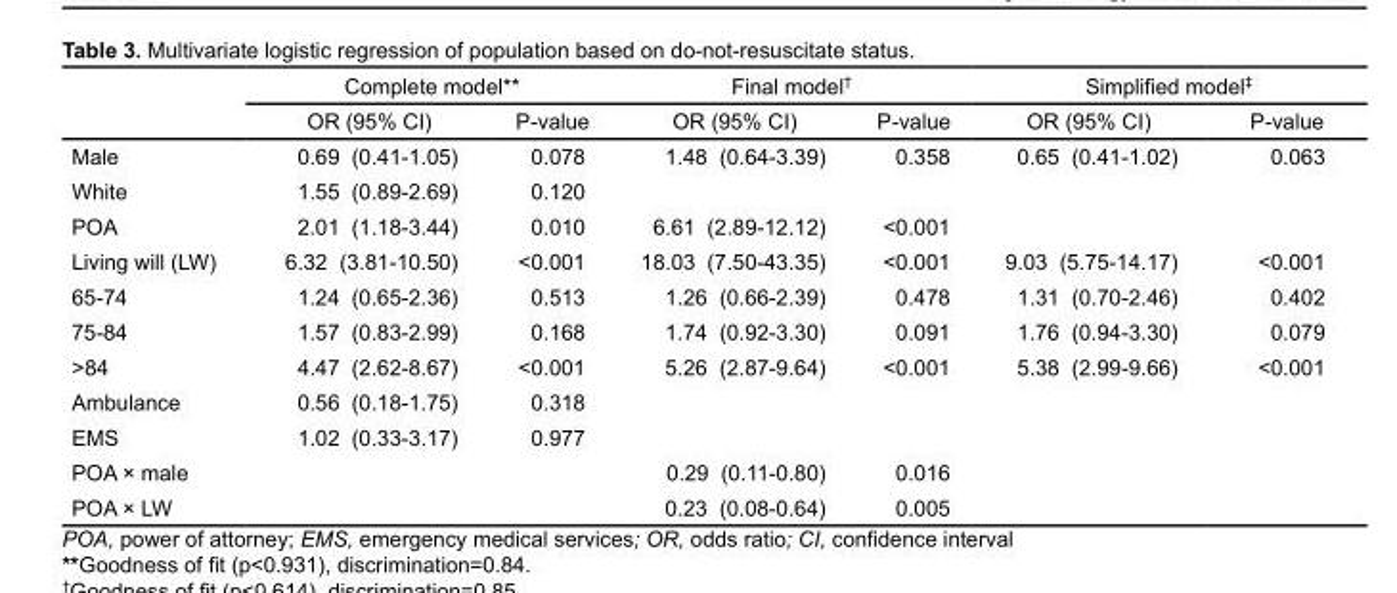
<table><thead><tr><td rowspan="2"></td><td colspan="2">Complete model**</td><td colspan="2">Final model†</td><td colspan="2">Simplified model‡</td></tr><tr><td>OR (95% CI)</td><td>P-value</td><td>OR (95% CI)</td><td>P-value</td><td>OR (95% CI)</td><td>P-value</td></tr></thead><tbody><tr><td>Male</td><td>0.69 (0.41-1.05)</td><td>0.078</td><td>1.48 (0.64-3.39)</td><td>0.358</td><td>0.65 (0.41-1.02)</td><td>0.063</td></tr><tr><td>White</td><td>1.55 (0.89-2.69)</td><td>0.120</td><td></td><td></td><td></td><td></td></tr><tr><td>POA</td><td>2.01 (1.18-3.44)</td><td>0.010</td><td>6.61 (2.89-12.12)</td><td>&lt;0.001</td><td></td><td></td></tr><tr><td>Living will (LW)</td><td>6.32 (3.81-10.50)</td><td>&lt;0.001</td><td>18.03 (7.50-43.35)</td><td>&lt;0.001</td><td>9.03 (5.75-14.17)</td><td>&lt;0.001</td></tr><tr><td>65-74</td><td>1.24 (0.65-2.36)</td><td>0.513</td><td>1.26 (0.66-2.39)</td><td>0.478</td><td>1.31 (0.70-2.46)</td><td>0.402</td></tr><tr><td>75-84</td><td>1.57 (0.83-2.99)</td><td>0.168</td><td>1.74 (0.92-3.30)</td><td>0.091</td><td>1.76 (0.94-3.30)</td><td>0.079</td></tr><tr><td>&gt;84</td><td>4.47 (2.62-8.67)</td><td>&lt;0.001</td><td>5.26 (2.87-9.64)</td><td>&lt;0.001</td><td>5.38 (2.99-9.66)</td><td>&lt;0.001</td></tr><tr><td>Ambulance</td><td>0.56 (0.18-1.75)</td><td>0.318</td><td></td><td></td><td></td><td></td></tr><tr><td>EMS</td><td>1.02 (0.33-3.17)</td><td>0.977</td><td></td><td></td><td></td><td></td></tr><tr><td>POA × male</td><td></td><td></td><td>0.29 (0.11-0.80)</td><td>0.016</td><td></td><td></td></tr><tr><td>POA × LW</td><td></td><td></td><td>0.23 (0.08-0.64)</td><td>0.005</td><td></td><td></td></tr></tbody></table>